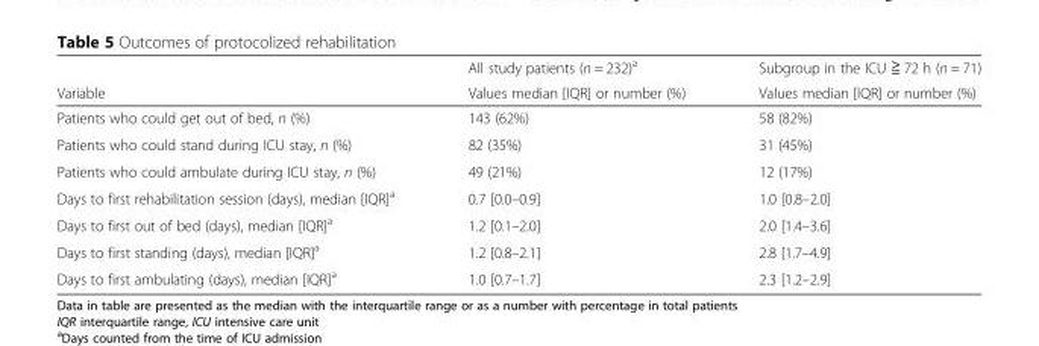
<table><thead><tr><td rowspan="2">Variable</td><td rowspan="2">All study patients (n = 232)<sup>a</sup> Values median [IQR] or number (%)</td><td rowspan="2">Subgroup in the ICU ≧ 72 h (n = 71) Values median [IQR] or number (%)</td></tr><tr></tr></thead><tbody><tr><td>Patients who could get out of bed, n (%)</td><td>143 (62%)</td><td>58 (82%)</td></tr><tr><td>Patients who could stand during ICU stay, n (%)</td><td>82 (35%)</td><td>31 (45%)</td></tr><tr><td>Patients who could ambulate during ICU stay, n (%)</td><td>49 (21%)</td><td>12 (17%)</td></tr><tr><td>Days to first rehabilitation session (days), median [IQR]<sup>a</sup></td><td>0.7 [0.0–0.9]</td><td>1.0 [0.8–2.0]</td></tr><tr><td>Days to first out of bed (days), median [IQR]<sup>a</sup></td><td>1.2 [0.1–2.0]</td><td>2.0 [1.4–3.6]</td></tr><tr><td>Days to first standing (days), median [IQR]<sup>a</sup></td><td>1.2 [0.8–2.1]</td><td>2.8 [1.7–4.9]</td></tr><tr><td>Days to first ambulating (days), median [IQR]<sup>a</sup></td><td>1.0 [0.7–1.7]</td><td>2.3 [1.2–2.9]</td></tr></tbody></table>